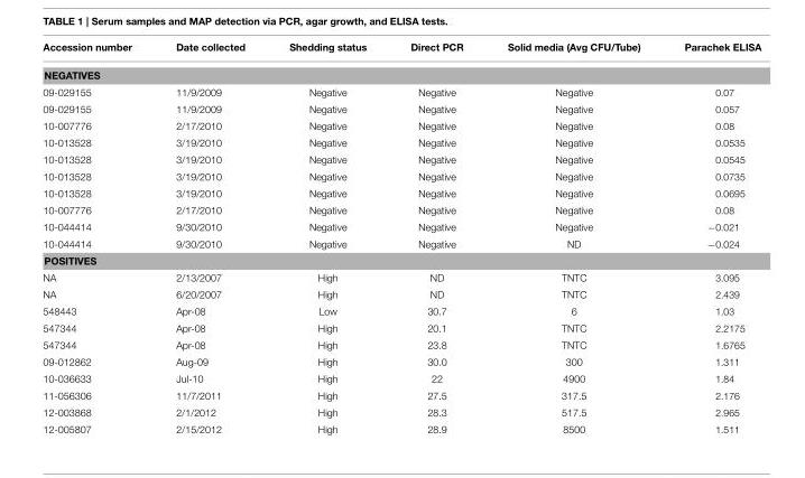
<table><thead><tr><td>Accession number</td><td>Date collected</td><td>Shedding status</td><td>Direct PCR</td><td>Solid media (Avg CFU/Tube)</td><td>Parachek ELISA</td></tr></thead><tbody><tr><td colspan="6">NEGATIVES</td></tr><tr><td>09-029155</td><td>11/9/2009</td><td>Negative</td><td>Negative</td><td>Negative</td><td>0.07</td></tr><tr><td>09-029155</td><td>11/9/2009</td><td>Negative</td><td>Negative</td><td>Negative</td><td>0.057</td></tr><tr><td>10-007776</td><td>2/17/2010</td><td>Negative</td><td>Negative</td><td>Negative</td><td>0.08</td></tr><tr><td>10-013528</td><td>3/19/2010</td><td>Negative</td><td>Negative</td><td>Negative</td><td>0.0535</td></tr><tr><td>10-013528</td><td>3/19/2010</td><td>Negative</td><td>Negative</td><td>Negative</td><td>0.0545</td></tr><tr><td>10-013528</td><td>3/19/2010</td><td>Negative</td><td>Negative</td><td>Negative</td><td>0.0735</td></tr><tr><td>10-013528</td><td>3/19/2010</td><td>Negative</td><td>Negative</td><td>Negative</td><td>0.0695</td></tr><tr><td>10-007776</td><td>2/17/2010</td><td>Negative</td><td>Negative</td><td>Negative</td><td>0.08</td></tr><tr><td>10-044414</td><td>9/30/2010</td><td>Negative</td><td>Negative</td><td>Negative</td><td>−0.021</td></tr><tr><td>10-044414</td><td>9/30/2010</td><td>Negative</td><td>Negative</td><td>ND</td><td>−0.024</td></tr><tr><td colspan="6">POSITIVES</td></tr><tr><td>NA</td><td>2/13/2007</td><td>High</td><td>ND</td><td>TNTC</td><td>3.095</td></tr><tr><td>NA</td><td>6/20/2007</td><td>High</td><td>ND</td><td>TNTC</td><td>2.439</td></tr><tr><td>548443</td><td>Apr-08</td><td>Low</td><td>30.7</td><td>6</td><td>1.03</td></tr><tr><td>547344</td><td>Apr-08</td><td>High</td><td>20.1</td><td>TNTC</td><td>2.2175</td></tr><tr><td>547344</td><td>Apr-08</td><td>High</td><td>23.8</td><td>TNTC</td><td>1.6765</td></tr><tr><td>09-012862</td><td>Aug-09</td><td>High</td><td>30.0</td><td>300</td><td>1.311</td></tr><tr><td>10-036633</td><td>Jul-10</td><td>High</td><td>22</td><td>4900</td><td>1.84</td></tr><tr><td>11-056306</td><td>11/7/2011</td><td>High</td><td>27.5</td><td>317.5</td><td>2.176</td></tr><tr><td>12-003868</td><td>2/1/2012</td><td>High</td><td>28.3</td><td>517.5</td><td>2.965</td></tr><tr><td>12-005807</td><td>2/15/2012</td><td>High</td><td>28.9</td><td>8500</td><td>1.511</td></tr></tbody></table>